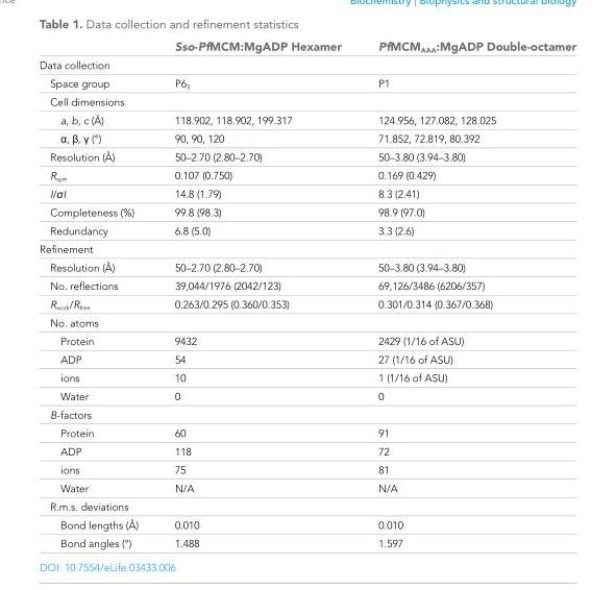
<table><thead><tr><td></td><td>Sso-PfMCM:MgADP Hexamer</td><td>PfMCM<sub>AAA</sub>:MgADP Double-octamer</td></tr></thead><tbody><tr><td colspan="3">Data collection</td></tr><tr><td>Space group</td><td>P6<sub>3</sub></td><td>P1</td></tr><tr><td colspan="3">Cell dimensions</td></tr><tr><td>a, b, c (Å)</td><td>118.902, 118.902, 199.317</td><td>124.956, 127.082, 128.025</td></tr><tr><td>α, β, γ (°)</td><td>90, 90, 120</td><td>71.852, 72.819, 80.392</td></tr><tr><td>Resolution (Å)</td><td>50–2.70 (2.80–2.70)</td><td>50–3.80 (3.94–3.80)</td></tr><tr><td>R<sub>sym</sub></td><td>0.107 (0.750)</td><td>0.169 (0.429)</td></tr><tr><td>I/σI</td><td>14.8 (1.79)</td><td>8.3 (2.41)</td></tr><tr><td>Completeness (%)</td><td>99.8 (98.3)</td><td>98.9 (97.0)</td></tr><tr><td>Redundancy</td><td>6.8 (5.0)</td><td>3.3 (2.6)</td></tr><tr><td colspan="3">Refinement</td></tr><tr><td>Resolution (Å)</td><td>50–2.70 (2.80–2.70)</td><td>50–3.80 (3.94–3.80)</td></tr><tr><td>No. reflections</td><td>39,044/1976 (2042/123)</td><td>69,126/3486 (6206/357)</td></tr><tr><td>R<sub>work</sub>/R<sub>free</sub></td><td>0.263/0.295 (0.360/0.353)</td><td>0.301/0.314 (0.367/0.368)</td></tr><tr><td colspan="3">No. atoms</td></tr><tr><td>Protein</td><td>9432</td><td>2429 (1/16 of ASU)</td></tr><tr><td>ADP</td><td>54</td><td>27 (1/16 of ASU)</td></tr><tr><td>ions</td><td>10</td><td>1 (1/16 of ASU)</td></tr><tr><td>Water</td><td>0</td><td>0</td></tr><tr><td colspan="3">B-factors</td></tr><tr><td>Protein</td><td>60</td><td>91</td></tr><tr><td>ADP</td><td>118</td><td>72</td></tr><tr><td>ions</td><td>75</td><td>81</td></tr><tr><td>Water</td><td>N/A</td><td>N/A</td></tr><tr><td colspan="3">R.m.s. deviations</td></tr><tr><td>Bond lengths (Å)</td><td>0.010</td><td>0.010</td></tr><tr><td>Bond angles (°)</td><td>1.488</td><td>1.597</td></tr></tbody></table>